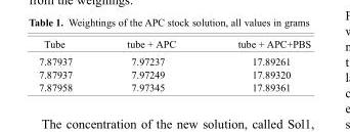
<table><thead><tr><td>Tube</td><td>tube + APC</td><td>tube + APC+PBS</td></tr></thead><tbody><tr><td>7.87937</td><td>7.97237</td><td>17.89261</td></tr><tr><td>7.87937</td><td>7.97249</td><td>17.89320</td></tr><tr><td>7.87958</td><td>7.97345</td><td>17.89361</td></tr></tbody></table>